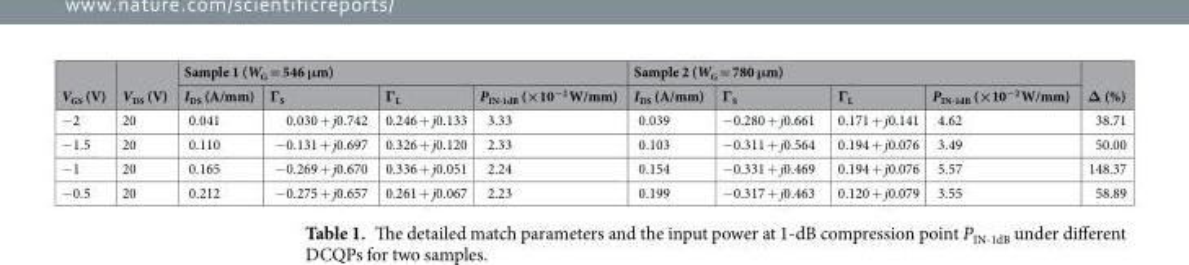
<table><thead><tr><td rowspan="2">V<sub>GS</sub> (V)</td><td rowspan="2">V<sub>DS</sub> (V)</td><td colspan="4">Sample 1 (W<sub>G</sub> = 546 μm)</td><td colspan="4">Sample 2 (W<sub>G</sub> = 780 μm)</td><td rowspan="2">Δ (%)</td></tr><tr><td>I<sub>DS</sub> (A/mm)</td><td>Γ<sub>S</sub></td><td>Γ<sub>L</sub></td><td>P<sub>IN-1dB</sub> (×10<sup>−2</sup> W/mm)</td><td>I<sub>DS</sub> (A/mm)</td><td>Γ<sub>S</sub></td><td>Γ<sub>L</sub></td><td>P<sub>IN-1dB</sub> (×10<sup>−2</sup> W/mm)</td></tr></thead><tbody><tr><td>−2</td><td>20</td><td>0.041</td><td>0.030 + j0.742</td><td>0.246 + j0.133</td><td>3.33</td><td>0.039</td><td>−0.280 + j0.661</td><td>0.171 + j0.141</td><td>4.62</td><td>38.71</td></tr><tr><td>−1.5</td><td>20</td><td>0.110</td><td>−0.131 + j0.697</td><td>0.326 + j0.120</td><td>2.33</td><td>0.103</td><td>−0.311 + j0.564</td><td>0.194 + j0.076</td><td>3.49</td><td>50.00</td></tr><tr><td>−1</td><td>20</td><td>0.165</td><td>−0.269 + j0.670</td><td>0.336 + j0.051</td><td>2.24</td><td>0.154</td><td>−0.331 + j0.469</td><td>0.194 + j0.076</td><td>5.57</td><td>148.37</td></tr><tr><td>−0.5</td><td>20</td><td>0.212</td><td>−0.275 + j0.657</td><td>0.261 + j0.067</td><td>2.23</td><td>0.199</td><td>−0.317 + j0.463</td><td>0.120 + j0.079</td><td>3.55</td><td>58.89</td></tr></tbody></table>